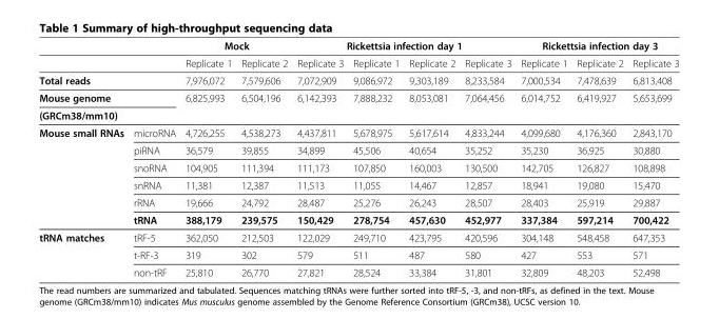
<table><thead><tr><td rowspan="2"></td><td rowspan="2"></td><td colspan="2">Mock</td><td colspan="4">Rickettsia infection day 1</td><td colspan="3">Rickettsia infection day 3</td></tr><tr><td>Replicate 1</td><td>Replicate 2</td><td>Replicate 3</td><td>Replicate 1</td><td>Replicate 2</td><td>Replicate 3</td><td>Replicate 1</td><td>Replicate 2</td><td>Replicate 3</td></tr></thead><tbody><tr><td colspan="2">Total reads</td><td>7,976,072</td><td>7,579,606</td><td>7,072,909</td><td>9,086,972</td><td>9,303,189</td><td>8,233,584</td><td>7,000,534</td><td>7,478,639</td><td>6,813,408</td></tr><tr><td colspan="2">Mouse genome</td><td rowspan="2">6,825,993</td><td rowspan="2">6,504,196</td><td rowspan="2">6,142,393</td><td rowspan="2">7,888,232</td><td rowspan="2">8,053,081</td><td rowspan="2">7,064,456</td><td rowspan="2">6,014,752</td><td rowspan="2">6,419,927</td><td rowspan="2">5,653,699</td></tr><tr><td colspan="2">(GRCm38/mm10)</td></tr><tr><td rowspan="6">Mouse small RNAs</td><td>microRNA</td><td>4,726,255</td><td>4,538,273</td><td>4,437,811</td><td>5,678,975</td><td>5,617,614</td><td>4,833,244</td><td>4,099,680</td><td>4,176,360</td><td>2,843,170</td></tr><tr><td>piRNA</td><td>36,579</td><td>39,855</td><td>34,899</td><td>45,506</td><td>40,654</td><td>35,252</td><td>35,230</td><td>36,925</td><td>30,880</td></tr><tr><td>snoRNA</td><td>104,905</td><td>111,394</td><td>111,173</td><td>107,850</td><td>160,003</td><td>130,500</td><td>142,705</td><td>126,827</td><td>108,898</td></tr><tr><td>snRNA</td><td>11,381</td><td>12,387</td><td>11,513</td><td>11,055</td><td>14,467</td><td>12,857</td><td>18,941</td><td>19,080</td><td>15,470</td></tr><tr><td>rRNA</td><td>19,666</td><td>24,792</td><td>28,487</td><td>25,276</td><td>26,243</td><td>28,507</td><td>28,403</td><td>25,919</td><td>29,887</td></tr><tr><td>tRNA</td><td>388,179</td><td>239,575</td><td>150,429</td><td>278,754</td><td>457,630</td><td>452,977</td><td>337,384</td><td>597,214</td><td>700,422</td></tr><tr><td rowspan="3">tRNA matches</td><td>tRF-5</td><td>362,050</td><td>212,503</td><td>122,029</td><td>249,710</td><td>423,795</td><td>420,596</td><td>304,148</td><td>548,458</td><td>647,353</td></tr><tr><td>t-RF-3</td><td>319</td><td>302</td><td>579</td><td>511</td><td>487</td><td>580</td><td>427</td><td>553</td><td>571</td></tr><tr><td>non-tRF</td><td>25,810</td><td>26,770</td><td>27,821</td><td>28,524</td><td>33,384</td><td>31,801</td><td>32,809</td><td>48,203</td><td>52,498</td></tr></tbody></table>